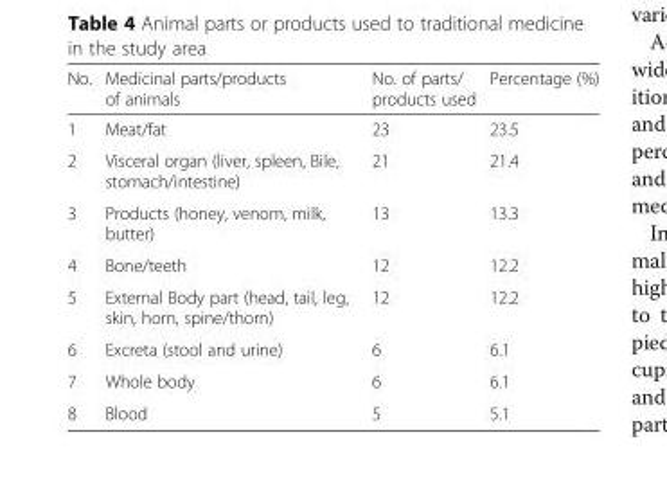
<table><thead><tr><td>No.</td><td>Medicinal parts/products of animals</td><td>No. of parts/ products used</td><td>Percentage (%)</td></tr></thead><tbody><tr><td>1</td><td>Meat/fat</td><td>23</td><td>23.5</td></tr><tr><td>2</td><td>Visceral organ (liver, spleen, Bile, stomach/intestine)</td><td>21</td><td>21.4</td></tr><tr><td>3</td><td>Products (honey, venom, milk, butter)</td><td>13</td><td>13.3</td></tr><tr><td>4</td><td>Bone/teeth</td><td>12</td><td>12.2</td></tr><tr><td>5</td><td>External Body part (head, tail, leg, skin, horn, spine/thorn)</td><td>12</td><td>12.2</td></tr><tr><td>6</td><td>Excreta (stool and urine)</td><td>6</td><td>6.1</td></tr><tr><td>7</td><td>Whole body</td><td>6</td><td>6.1</td></tr><tr><td>8</td><td>Blood</td><td>5</td><td>5.1</td></tr></tbody></table>